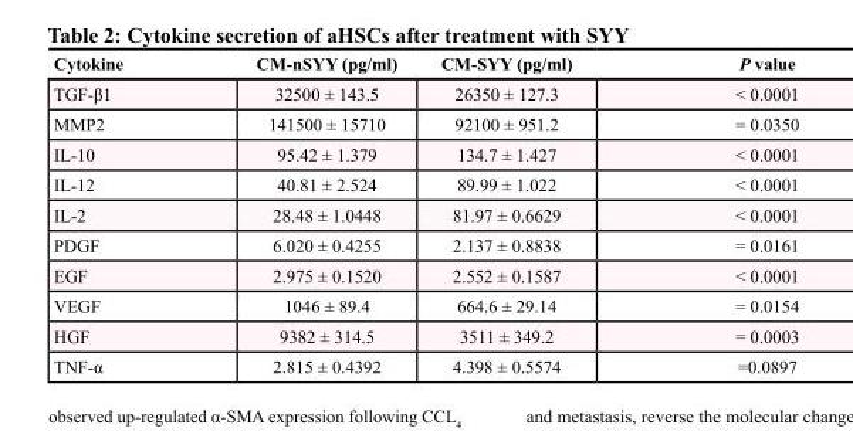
<table><thead><tr><td>Cytokine</td><td>CM-nSYY (pg/ml)</td><td>CM-SYY (pg/ml)</td><td>P value</td></tr></thead><tbody><tr><td>TGF-β1</td><td>32500 ± 143.5</td><td>26350 ± 127.3</td><td>&lt; 0.0001</td></tr><tr><td>MMP2</td><td>141500 ± 15710</td><td>92100 ± 951.2</td><td>= 0.0350</td></tr><tr><td>IL-10</td><td>95.42 ± 1.379</td><td>134.7 ± 1.427</td><td>&lt; 0.0001</td></tr><tr><td>IL-12</td><td>40.81 ± 2.524</td><td>89.99 ± 1.022</td><td>&lt; 0.0001</td></tr><tr><td>IL-2</td><td>28.48 ± 1.0448</td><td>81.97 ± 0.6629</td><td>&lt; 0.0001</td></tr><tr><td>PDGF</td><td>6.020 ± 0.4255</td><td>2.137 ± 0.8838</td><td>= 0.0161</td></tr><tr><td>EGF</td><td>2.975 ± 0.1520</td><td>2.552 ± 0.1587</td><td>&lt; 0.0001</td></tr><tr><td>VEGF</td><td>1046 ± 89.4</td><td>664.6 ± 29.14</td><td>= 0.0154</td></tr><tr><td>HGF</td><td>9382 ± 314.5</td><td>3511 ± 349.2</td><td>= 0.0003</td></tr><tr><td>TNF-α</td><td>2.815 ± 0.4392</td><td>4.398 ± 0.5574</td><td>=0.0897</td></tr></tbody></table>